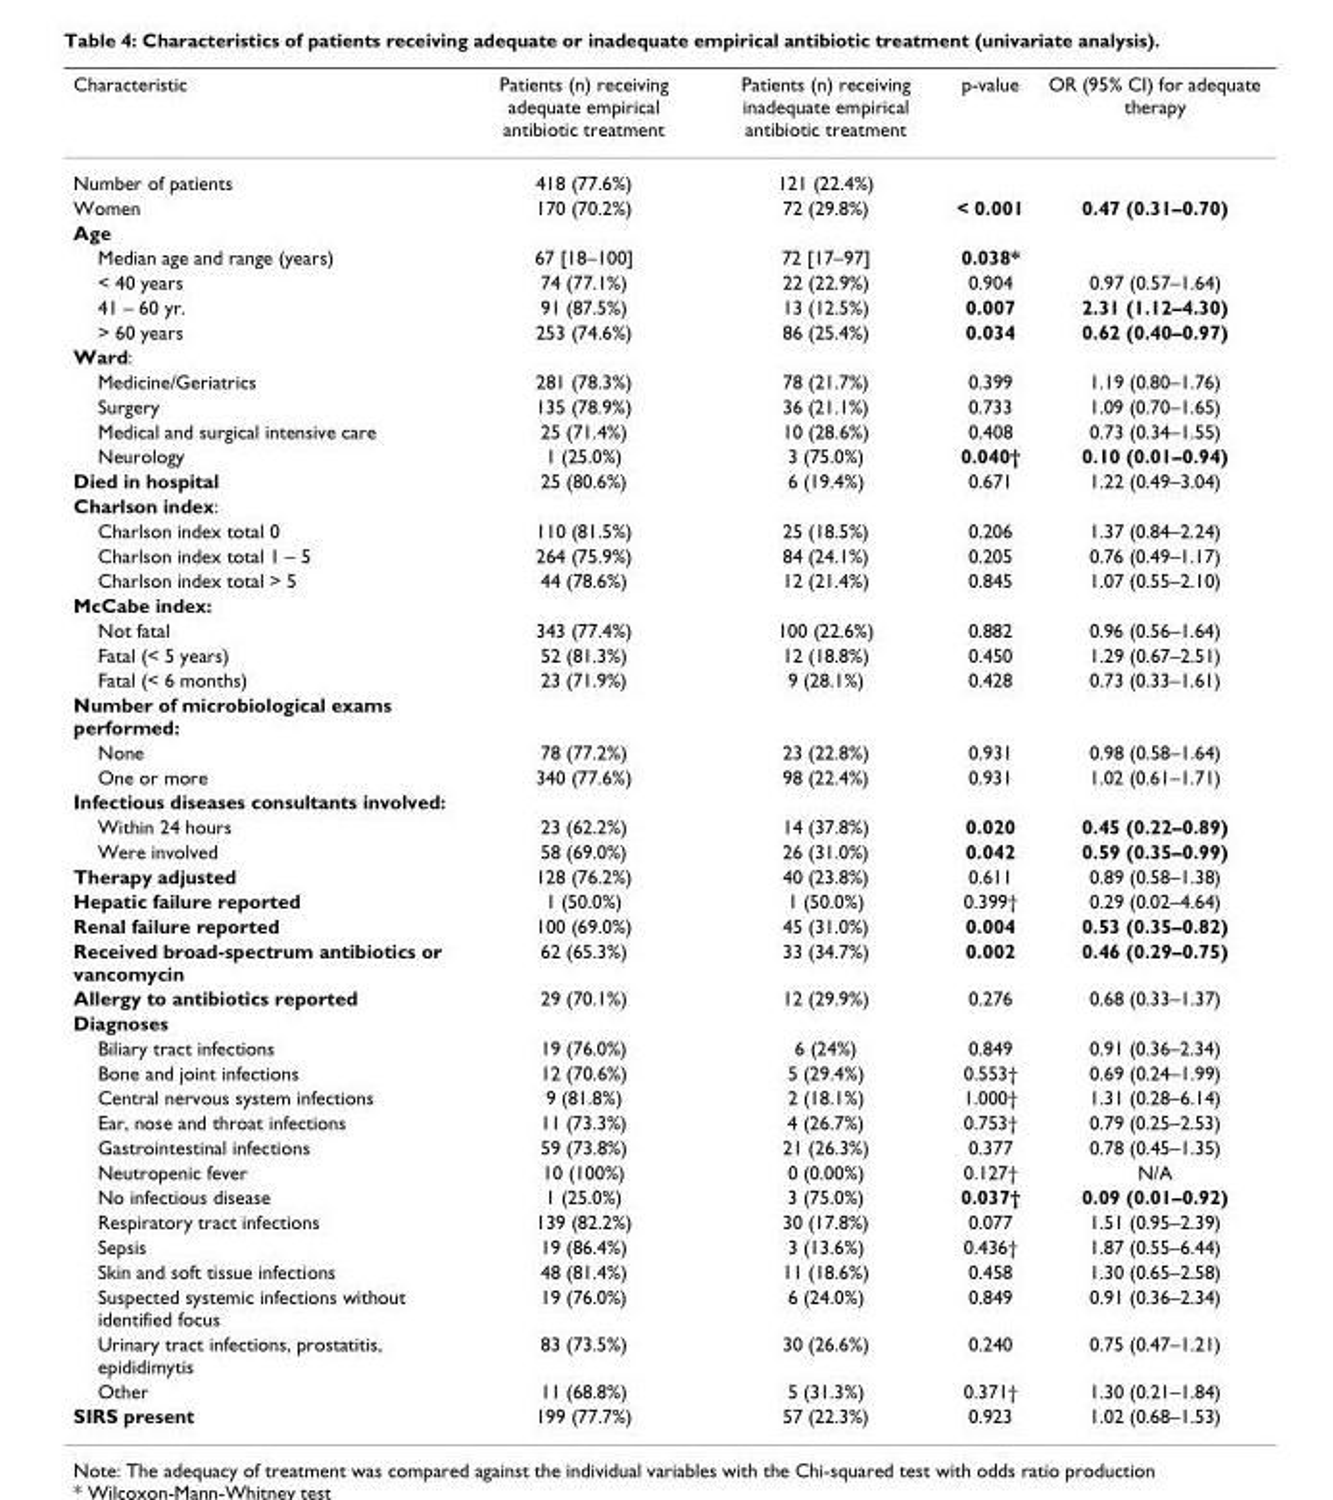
<table><thead><tr><td>Characteristic</td><td>Patients (n) receiving adequate empirical antibiotic treatment</td><td>Patients (n) receiving inadequate empirical antibiotic treatment</td><td>p-value</td><td>OR (95% CI) for adequate therapy</td></tr></thead><tbody><tr><td>Number of patients</td><td>418 (77.6%)</td><td>121 (22.4%)</td><td></td><td></td></tr><tr><td>Women</td><td>170 (70.2%)</td><td>72 (29.8%)</td><td>&lt; 0.001</td><td>0.47 (0.31–0.70)</td></tr><tr><td colspan="5">Age</td></tr><tr><td>Median age and range (years)</td><td>67 [18–100]</td><td>72 [17–97]</td><td>0.038*</td><td></td></tr><tr><td>&lt; 40 years</td><td>74 (77.1%)</td><td>22 (22.9%)</td><td>0.904</td><td>0.97 (0.57–1.64)</td></tr><tr><td>41 – 60 yr.</td><td>91 (87.5%)</td><td>13 (12.5%)</td><td>0.007</td><td>2.31 (1.12–4.30)</td></tr><tr><td>&gt; 60 years</td><td>253 (74.6%)</td><td>86 (25.4%)</td><td>0.034</td><td>0.62 (0.40–0.97)</td></tr><tr><td colspan="5">Ward:</td></tr><tr><td>Medicine/Geriatrics</td><td>281 (78.3%)</td><td>78 (21.7%)</td><td>0.399</td><td>1.19 (0.80–1.76)</td></tr><tr><td>Surgery</td><td>135 (78.9%)</td><td>36 (21.1%)</td><td>0.733</td><td>1.09 (0.70–1.65)</td></tr><tr><td>Medical and surgical intensive care</td><td>25 (71.4%)</td><td>10 (28.6%)</td><td>0.408</td><td>0.73 (0.34–1.55)</td></tr><tr><td>Neurology</td><td>1 (25.0%)</td><td>3 (75.0%)</td><td>0.040†</td><td>0.10 (0.01–0.94)</td></tr><tr><td>Died in hospital</td><td>25 (80.6%)</td><td>6 (19.4%)</td><td>0.671</td><td>1.22 (0.49–3.04)</td></tr><tr><td colspan="5">Charlson index:</td></tr><tr><td>Charlson index total 0</td><td>110 (81.5%)</td><td>25 (18.5%)</td><td>0.206</td><td>1.37 (0.84–2.24)</td></tr><tr><td>Charlson index total 1 – 5</td><td>264 (75.9%)</td><td>84 (24.1%)</td><td>0.205</td><td>0.76 (0.49–1.17)</td></tr><tr><td>Charlson index total &gt; 5</td><td>44 (78.6%)</td><td>12 (21.4%)</td><td>0.845</td><td>1.07 (0.55–2.10)</td></tr><tr><td colspan="5">McCabe index:</td></tr><tr><td>Not fatal</td><td>343 (77.4%)</td><td>100 (22.6%)</td><td>0.882</td><td>0.96 (0.56–1.64)</td></tr><tr><td>Fatal (&lt; 5 years)</td><td>52 (81.3%)</td><td>12 (18.8%)</td><td>0.450</td><td>1.29 (0.67–2.51)</td></tr><tr><td>Fatal (&lt; 6 months)</td><td>23 (71.9%)</td><td>9 (28.1%)</td><td>0.428</td><td>0.73 (0.33–1.61)</td></tr><tr><td colspan="5">Number of microbiological exams performed:</td></tr><tr><td>None</td><td>78 (77.2%)</td><td>23 (22.8%)</td><td>0.931</td><td>0.98 (0.58–1.64)</td></tr><tr><td>One or more</td><td>340 (77.6%)</td><td>98 (22.4%)</td><td>0.931</td><td>1.02 (0.61–1.71)</td></tr><tr><td colspan="5">Infectious diseases consultants involved:</td></tr><tr><td>Within 24 hours</td><td>23 (62.2%)</td><td>14 (37.8%)</td><td>0.020</td><td>0.45 (0.22–0.89)</td></tr><tr><td>Were involved</td><td>58 (69.0%)</td><td>26 (31.0%)</td><td>0.042</td><td>0.59 (0.35–0.99)</td></tr><tr><td>Therapy adjusted</td><td>128 (76.2%)</td><td>40 (23.8%)</td><td>0.611</td><td>0.89 (0.58–1.38)</td></tr><tr><td>Hepatic failure reported</td><td>1 (50.0%)</td><td>1 (50.0%)</td><td>0.399†</td><td>0.29 (0.02–4.64)</td></tr><tr><td>Renal failure reported</td><td>100 (69.0%)</td><td>45 (31.0%)</td><td>0.004</td><td>0.53 (0.35–0.82)</td></tr><tr><td>Received broad-spectrum antibiotics or vancomycin</td><td>62 (65.3%)</td><td>33 (34.7%)</td><td>0.002</td><td>0.46 (0.29–0.75)</td></tr><tr><td>Allergy to antibiotics reported</td><td>29 (70.1%)</td><td>12 (29.9%)</td><td>0.276</td><td>0.68 (0.33–1.37)</td></tr><tr><td colspan="5">Diagnoses</td></tr><tr><td>Biliary tract infections</td><td>19 (76.0%)</td><td>6 (24%)</td><td>0.849</td><td>0.91 (0.36–2.34)</td></tr><tr><td>Bone and joint infections</td><td>12 (70.6%)</td><td>5 (29.4%)</td><td>0.553†</td><td>0.69 (0.24–1.99)</td></tr><tr><td>Central nervous system infections</td><td>9 (81.8%)</td><td>2 (18.1%)</td><td>1.000†</td><td>1.31 (0.28–6.14)</td></tr><tr><td>Ear, nose and throat infections</td><td>11 (73.3%)</td><td>4 (26.7%)</td><td>0.753†</td><td>0.79 (0.25–2.53)</td></tr><tr><td>Gastrointestinal infections</td><td>59 (73.8%)</td><td>21 (26.3%)</td><td>0.377</td><td>0.78 (0.45–1.35)</td></tr><tr><td>Neutropenic fever</td><td>10 (100%)</td><td>0 (0.00%)</td><td>0.127†</td><td>N/A</td></tr><tr><td>No infectious disease</td><td>1 (25.0%)</td><td>3 (75.0%)</td><td>0.037†</td><td>0.09 (0.01–0.92)</td></tr><tr><td>Respiratory tract infections</td><td>139 (82.2%)</td><td>30 (17.8%)</td><td>0.077</td><td>1.51 (0.95–2.39)</td></tr><tr><td>Sepsis</td><td>19 (86.4%)</td><td>3 (13.6%)</td><td>0.436†</td><td>1.87 (0.55–6.44)</td></tr><tr><td>Skin and soft tissue infections</td><td>48 (81.4%)</td><td>11 (18.6%)</td><td>0.458</td><td>1.30 (0.65–2.58)</td></tr><tr><td>Suspected systemic infections without identified focus</td><td>19 (76.0%)</td><td>6 (24.0%)</td><td>0.849</td><td>0.91 (0.36–2.34)</td></tr><tr><td>Urinary tract infections, prostatitis, epididimytis</td><td>83 (73.5%)</td><td>30 (26.6%)</td><td>0.240</td><td>0.75 (0.47–1.21)</td></tr><tr><td>Other</td><td>11 (68.8%)</td><td>5 (31.3%)</td><td>0.371†</td><td>1.30 (0.21–1.84)</td></tr><tr><td>SIRS present</td><td>199 (77.7%)</td><td>57 (22.3%)</td><td>0.923</td><td>1.02 (0.68–1.53)</td></tr></tbody></table>